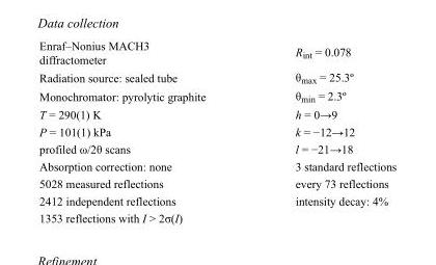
<table><tbody><tr><td>Enraf–Nonius MACH3 diffractometer</td><td>R<sub>int</sub> = 0.078</td></tr><tr><td>Radiation source: sealed tube</td><td>θ<sub>max</sub> = 25.3º</td></tr><tr><td>Monochromator: pyrolytic graphite</td><td>θ<sub>min</sub> = 2.3º</td></tr><tr><td>T = 290(1) K</td><td>h = 0→9</td></tr><tr><td>P = 101(1) kPa</td><td>k = −12→12</td></tr><tr><td>profiled ω/2θ scans</td><td>l = −21→18</td></tr><tr><td>Absorption correction: none</td><td>3 standard reflections</td></tr><tr><td>5028 measured reflections</td><td>every 73 reflections</td></tr><tr><td>2412 independent reflections</td><td>intensity decay: 4%</td></tr><tr><td>1353 reflections with I &gt; 2σ(I)</td><td></td></tr></tbody></table>